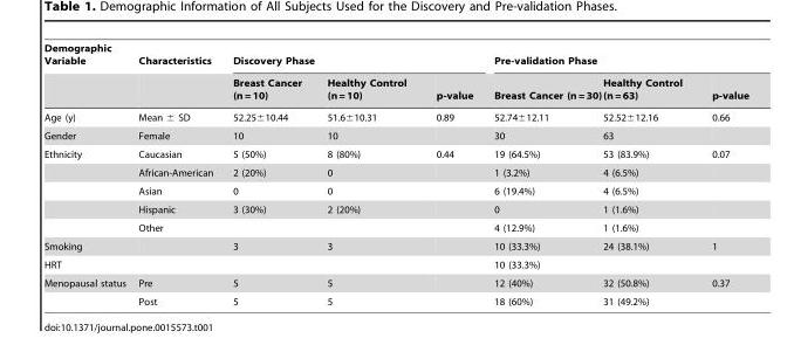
<table><thead><tr><td rowspan="2">Demographic Variable</td><td rowspan="2">Characteristics</td><td colspan="3">Discovery Phase</td><td colspan="3">Pre-validation Phase</td></tr><tr><td>Breast Cancer (n = 10)</td><td>Healthy Control (n = 10)</td><td>p-value</td><td>Breast Cancer (n = 30)</td><td>Healthy Control (n = 63)</td><td>p-value</td></tr></thead><tbody><tr><td>Age (y)</td><td>Mean ± SD</td><td>52.25±10.44</td><td>51.6±10.31</td><td>0.89</td><td>52.74±12.11</td><td>52.52±12.16</td><td>0.66</td></tr><tr><td>Gender</td><td>Female</td><td>10</td><td>10</td><td></td><td>30</td><td>63</td><td></td></tr><tr><td rowspan="5">Ethnicity</td><td>Caucasian</td><td>5 (50%)</td><td>8 (80%)</td><td>0.44</td><td>19 (64.5%)</td><td>53 (83.9%)</td><td>0.07</td></tr><tr><td>African-American</td><td>2 (20%)</td><td>0</td><td></td><td>1 (3.2%)</td><td>4 (6.5%)</td><td></td></tr><tr><td>Asian</td><td>0</td><td>0</td><td></td><td>6 (19.4%)</td><td>4 (6.5%)</td><td></td></tr><tr><td>Hispanic</td><td>3 (30%)</td><td>2 (20%)</td><td></td><td>0</td><td>1 (1.6%)</td><td></td></tr><tr><td>Other</td><td></td><td></td><td></td><td>4 (12.9%)</td><td>1 (1.6%)</td><td></td></tr><tr><td>Smoking</td><td></td><td>3</td><td>3</td><td></td><td>10 (33.3%)</td><td>24 (38.1%)</td><td>1</td></tr><tr><td>HRT</td><td></td><td></td><td></td><td></td><td>10 (33.3%)</td><td></td><td></td></tr><tr><td rowspan="2">Menopausal status</td><td>Pre</td><td>5</td><td>5</td><td></td><td>12 (40%)</td><td>32 (50.8%)</td><td>0.37</td></tr><tr><td>Post</td><td>5</td><td>5</td><td></td><td>18 (60%)</td><td>31 (49.2%)</td><td></td></tr></tbody></table>